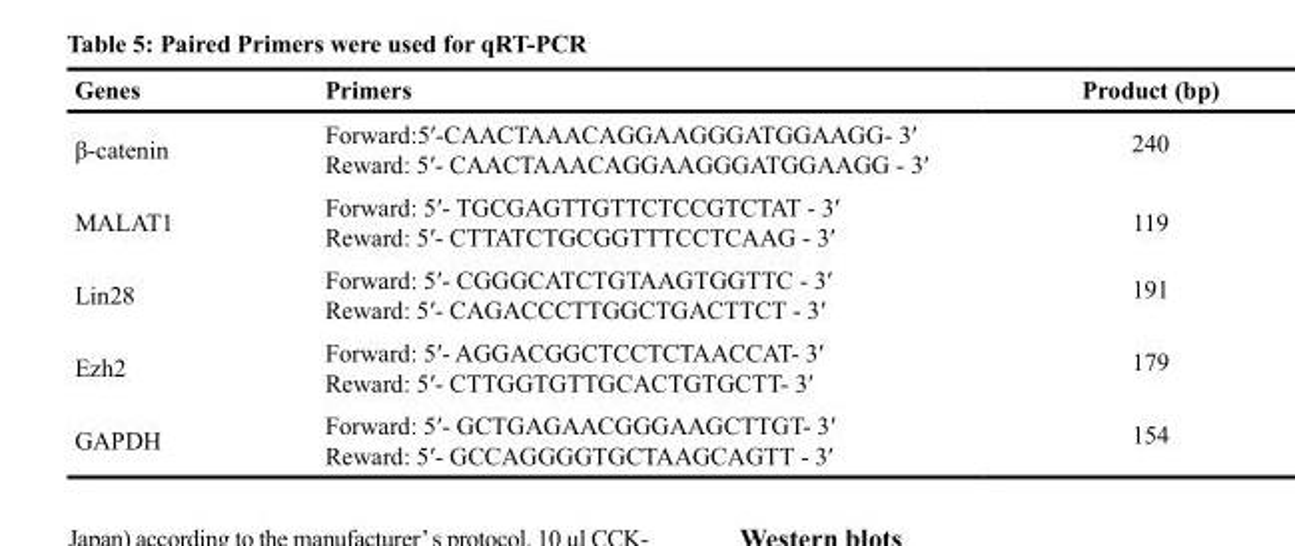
<table><thead><tr><td>Genes</td><td>Primers</td><td>Product (bp)</td></tr></thead><tbody><tr><td>β-catenin</td><td>Forward:5′-CAACTAAACAGGAAGGGATGGAAGG- 3′ Reward: 5′- CAACTAAACAGGAAGGGATGGAAGG - 3′</td><td>240</td></tr><tr><td>MALAT1</td><td>Forward: 5′- TGCGAGTTGTTCTCCGTCTAT - 3′ Reward: 5′- CTTATCTGCGGTTTCCTCAAG - 3′</td><td>119</td></tr><tr><td>Lin28</td><td>Forward: 5′- CGGGCATCTGTAAGTGGTTC - 3′ Reward: 5′- CAGACCCTTGGCTGACTTCT - 3′</td><td>191</td></tr><tr><td>Ezh2</td><td>Forward: 5′- AGGACGGCTCCTCTAACCAT- 3′ Reward: 5′- CTTGGTGTTGCACTGTGCTT- 3′</td><td>179</td></tr><tr><td>GAPDH</td><td>Forward: 5′- GCTGAGAACGGGAAGCTTGT- 3′ Reward: 5′- GCCAGGGGTGCTAAGCAGTT - 3′</td><td>154</td></tr></tbody></table>